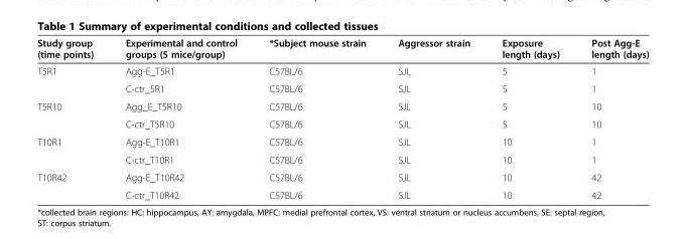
<table><thead><tr><td>Study group (time points)</td><td>Experimental and control groups (5 mice/group)</td><td>*Subject mouse strain</td><td>Aggressor strain</td><td>Exposure length (days)</td><td>Post Agg-E length (days)</td></tr></thead><tbody><tr><td rowspan="2">T5R1</td><td>Agg-E_T5R1</td><td>C57BL/6</td><td>SJL</td><td>5</td><td>1</td></tr><tr><td>C-ctr_5R1</td><td>C57BL/6</td><td>SJL</td><td>5</td><td>1</td></tr><tr><td rowspan="2">T5R10</td><td>Agg_E_T5R10</td><td>C57BL/6</td><td>SJL</td><td>5</td><td>10</td></tr><tr><td>C-ctr_T5R10</td><td>C57BL/6</td><td>SJL</td><td>5</td><td>10</td></tr><tr><td rowspan="2">T10R1</td><td>Agg-E_T10R1</td><td>C57BL/6</td><td>SJL</td><td>10</td><td>1</td></tr><tr><td>C-ctr_T10R1</td><td>C57BL/6</td><td>SJL</td><td>10</td><td>1</td></tr><tr><td rowspan="2">T10R42</td><td>Agg-E_T10R42</td><td>C57BL/6</td><td>SJL</td><td>10</td><td>42</td></tr><tr><td>C-ctr_T10R42</td><td>C57BL/6</td><td>SJL</td><td>10</td><td>42</td></tr></tbody></table>